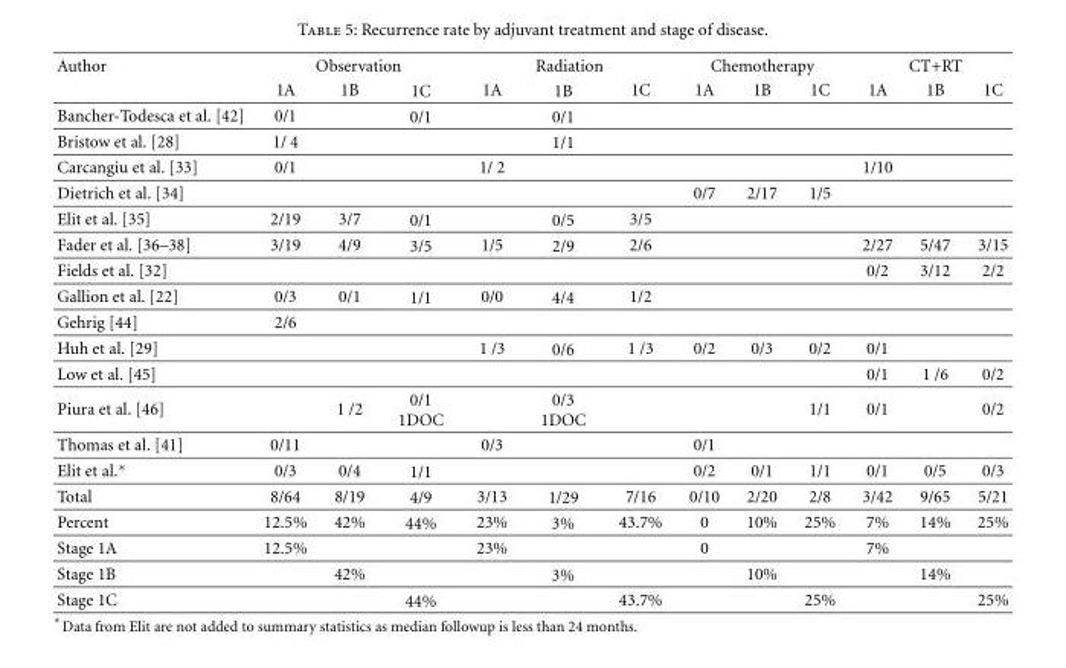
<table><thead><tr><td rowspan="2">Author</td><td colspan="3">Observation</td><td colspan="3">Radiation</td><td colspan="3">Chemotherapy</td><td colspan="3">CT+RT</td></tr><tr><td>1A</td><td>1B</td><td>1C</td><td>1A</td><td>1B</td><td>1C</td><td>1A</td><td>1B</td><td>1C</td><td>1A</td><td>1B</td><td>1C</td></tr></thead><tbody><tr><td>Bancher-Todesca et al. [42]</td><td>0/1</td><td></td><td>0/1</td><td></td><td>0/1</td><td></td><td></td><td></td><td></td><td></td><td></td><td></td></tr><tr><td>Bristow et al. [28]</td><td>1/ 4</td><td></td><td></td><td></td><td>1/1</td><td></td><td></td><td></td><td></td><td></td><td></td><td></td></tr><tr><td>Carcangiu et al. [33]</td><td>0/1</td><td></td><td></td><td>1/ 2</td><td></td><td></td><td></td><td></td><td></td><td>1/10</td><td></td><td></td></tr><tr><td>Dietrich et al. [34]</td><td></td><td></td><td></td><td></td><td></td><td></td><td>0/7</td><td>2/17</td><td>1/5</td><td></td><td></td><td></td></tr><tr><td>Elit et al. [35]</td><td>2/19</td><td>3/7</td><td>0/1</td><td></td><td>0/5</td><td>3/5</td><td></td><td></td><td></td><td></td><td></td><td></td></tr><tr><td>Fader et al. [36–38]</td><td>3/19</td><td>4/9</td><td>3/5</td><td>1/5</td><td>2/9</td><td>2/6</td><td></td><td></td><td></td><td>2/27</td><td>5/47</td><td>3/15</td></tr><tr><td>Fields et al. [32]</td><td></td><td></td><td></td><td></td><td></td><td></td><td></td><td></td><td></td><td>0/2</td><td>3/12</td><td>2/2</td></tr><tr><td>Gallion et al. [22]</td><td>0/3</td><td>0/1</td><td>1/1</td><td>0/0</td><td>4/4</td><td>1/2</td><td></td><td></td><td></td><td></td><td></td><td></td></tr><tr><td>Gehrig [44]</td><td>2/6</td><td></td><td></td><td></td><td></td><td></td><td></td><td></td><td></td><td></td><td></td><td></td></tr><tr><td>Huh et al. [29]</td><td></td><td></td><td></td><td>1 /3</td><td>0/6</td><td>1 /3</td><td>0/2</td><td>0/3</td><td>0/2</td><td>0/1</td><td></td><td></td></tr><tr><td>Low et al. [45]</td><td></td><td></td><td></td><td></td><td></td><td></td><td></td><td></td><td></td><td>0/1</td><td>1 /6</td><td>0/2</td></tr><tr><td>Piura et al. [46]</td><td></td><td>1 /2</td><td>0/1 1DOC</td><td></td><td>0/3 1DOC</td><td></td><td></td><td></td><td>1/1</td><td>0/1</td><td></td><td>0/2</td></tr><tr><td>Thomas et al. [41]</td><td>0/11</td><td></td><td></td><td>0/3</td><td></td><td></td><td>0/1</td><td></td><td></td><td></td><td></td><td></td></tr><tr><td>Elit et al.∗</td><td>0/3</td><td>0/4</td><td>1/1</td><td></td><td></td><td></td><td>0/2</td><td>0/1</td><td>1/1</td><td>0/1</td><td>0/5</td><td>0/3</td></tr><tr><td>Total</td><td>8/64</td><td>8/19</td><td>4/9</td><td>3/13</td><td>1/29</td><td>7/16</td><td>0/10</td><td>2/20</td><td>2/8</td><td>3/42</td><td>9/65</td><td>5/21</td></tr><tr><td>Percent</td><td>12.5%</td><td>42%</td><td>44%</td><td>23%</td><td>3%</td><td>43.7%</td><td>0</td><td>10%</td><td>25%</td><td>7%</td><td>14%</td><td>25%</td></tr><tr><td>Stage 1A</td><td>12.5%</td><td></td><td></td><td>23%</td><td></td><td></td><td>0</td><td></td><td></td><td>7%</td><td></td><td></td></tr><tr><td>Stage 1B</td><td></td><td>42%</td><td></td><td></td><td>3%</td><td></td><td></td><td>10%</td><td></td><td></td><td>14%</td><td></td></tr><tr><td>Stage 1C</td><td></td><td></td><td>44%</td><td></td><td></td><td>43.7%</td><td></td><td></td><td>25%</td><td></td><td></td><td>25%</td></tr></tbody></table>